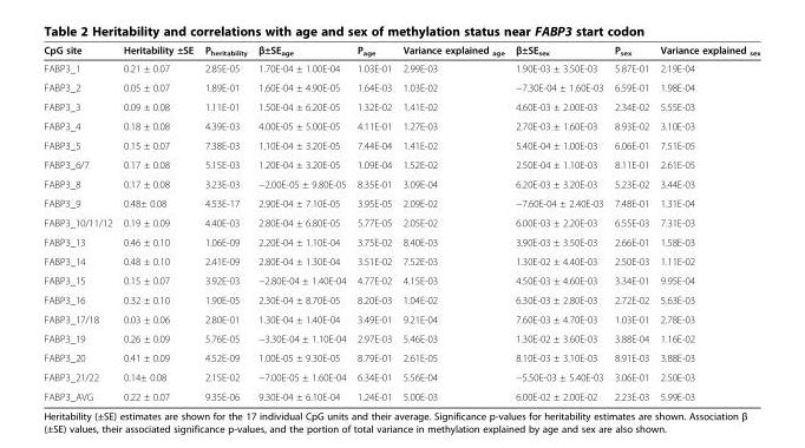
<table><thead><tr><td>CpG site</td><td>Heritability ±SE</td><td>P<sub>heritability</sub></td><td>β±SE<sub>age</sub></td><td>P<sub>age</sub></td><td>Variance explained <sub>age</sub></td><td>β±SE<sub>sex</sub></td><td>P<sub>sex</sub></td><td>Variance explained <sub>sex</sub></td></tr></thead><tbody><tr><td>FABP3_1</td><td>0.21 ± 0.07</td><td>2.85E-05</td><td>1.70E-04 ± 1.00E-04</td><td>1.03E-01</td><td>2.99E-03</td><td>1.90E-03 ± 3.50E-03</td><td>5.87E-01</td><td>2.19E-04</td></tr><tr><td>FABP3_2</td><td>0.05 ± 0.07</td><td>1.89E-01</td><td>1.60E-04 ± 4.90E-05</td><td>1.64E-03</td><td>1.03E-02</td><td>−7.30E-04 ± 1.60E-03</td><td>6.59E-01</td><td>1.98E-04</td></tr><tr><td>FABP3_3</td><td>0.09 ± 0.08</td><td>1.11E-01</td><td>1.50E-04 ± 6.20E-05</td><td>1.32E-02</td><td>1.41E-02</td><td>4.60E-03 ± 2.00E-03</td><td>2.34E-02</td><td>5.55E-03</td></tr><tr><td>FABP3_4</td><td>0.18 ± 0.08</td><td>4.39E-03</td><td>4.00E-05 ± 5.00E-05</td><td>4.11E-01</td><td>1.27E-03</td><td>2.70E-03 ± 1.60E-03</td><td>8.93E-02</td><td>3.10E-03</td></tr><tr><td>FABP3_5</td><td>0.15 ± 0.07</td><td>7.38E-03</td><td>1.10E-04 ± 3.20E-05</td><td>7.44E-04</td><td>1.41E-02</td><td>5.40E-04 ± 1.00E-03</td><td>6.06E-01</td><td>7.51E-05</td></tr><tr><td>FABP3_6/7</td><td>0.17 ± 0.08</td><td>5.15E-03</td><td>1.20E-04 ± 3.20E-05</td><td>1.09E-04</td><td>1.52E-02</td><td>2.50E-04 ± 1.10E-03</td><td>8.11E-01</td><td>2.61E-05</td></tr><tr><td>FABP3_8</td><td>0.17 ± 0.08</td><td>3.23E-03</td><td>−2.00E-05 ± 9.80E-05</td><td>8.35E-01</td><td>3.09E-04</td><td>6.20E-03 ± 3.20E-03</td><td>5.23E-02</td><td>3.44E-03</td></tr><tr><td>FABP3_9</td><td>0.48± 0.08</td><td>4.53E-17</td><td>2.90E-04 ± 7.10E-05</td><td>3.95E-05</td><td>2.09E-02</td><td>−7.60E-04 ± 2.40E-03</td><td>7.48E-01</td><td>1.31E-04</td></tr><tr><td>FABP3_10/11/12</td><td>0.19 ± 0.09</td><td>4.40E-03</td><td>2.80E-04 ± 6.80E-05</td><td>5.77E-05</td><td>2.05E-02</td><td>6.00E-03 ± 2.20E-03</td><td>6.55E-03</td><td>7.31E-03</td></tr><tr><td>FABP3_13</td><td>0.46 ± 0.10</td><td>1.06E-09</td><td>2.20E-04 ± 1.10E-04</td><td>3.75E-02</td><td>8.40E-03</td><td>3.90E-03 ± 3.50E-03</td><td>2.66E-01</td><td>1.58E-03</td></tr><tr><td>FABP3_14</td><td>0.48 ± 0.10</td><td>2.41E-09</td><td>2.80E-04 ± 1.30E-04</td><td>3.51E-02</td><td>7.52E-03</td><td>1.30E-02 ± 4.40E-03</td><td>2.50E-03</td><td>1.11E-02</td></tr><tr><td>FABP3_15</td><td>0.15 ± 0.07</td><td>3.92E-03</td><td>−2.80E-04 ± 1.40E-04</td><td>4.77E-02</td><td>4.15E-03</td><td>4.50E-03 ± 4.60E-03</td><td>3.34E-01</td><td>9.95E-04</td></tr><tr><td>FABP3_16</td><td>0.32 ± 0.10</td><td>1.90E-05</td><td>2.30E-04 ± 8.70E-05</td><td>8.20E-03</td><td>1.04E-02</td><td>6.30E-03 ± 2.80E-03</td><td>2.72E-02</td><td>5.63E-03</td></tr><tr><td>FABP3_17/18</td><td>0.03 ± 0.06</td><td>2.80E-01</td><td>1.30E-04 ± 1.40E-04</td><td>3.49E-01</td><td>9.21E-04</td><td>7.60E-03 ± 4.70E-03</td><td>1.03E-01</td><td>2.78E-03</td></tr><tr><td>FABP3_19</td><td>0.26 ± 0.09</td><td>5.76E-05</td><td>−3.30E-04 ± 1.10E-04</td><td>2.97E-03</td><td>5.46E-03</td><td>1.30E-02 ± 3.60E-03</td><td>3.88E-04</td><td>1.16E-02</td></tr><tr><td>FABP3_20</td><td>0.41 ± 0.09</td><td>4.52E-09</td><td>1.00E-05 ± 9.30E-05</td><td>8.79E-01</td><td>2.61E-05</td><td>8.10E-03 ± 3.10E-03</td><td>8.91E-03</td><td>3.88E-03</td></tr><tr><td>FABP3_21/22</td><td>0.14± 0.08</td><td>2.15E-02</td><td>−7.00E-05 ± 1.60E-04</td><td>6.34E-01</td><td>5.56E-04</td><td>−5.50E-03 ± 5.40E-03</td><td>3.06E-01</td><td>2.50E-03</td></tr><tr><td>FABP3_AVG</td><td>0.22 ± 0.07</td><td>9.35E-06</td><td>9.30E-04 ± 6.10E-04</td><td>1.24E-01</td><td>5.00E-03</td><td>6.00E-02 ± 2.00E-02</td><td>2.23E-03</td><td>5.99E-03</td></tr></tbody></table>